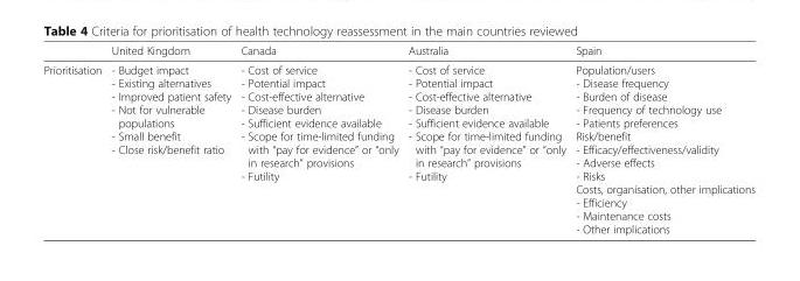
<table><thead><tr><td></td><td>United Kingdom</td><td>Canada</td><td>Australia</td><td>Spain</td></tr></thead><tbody><tr><td>Prioritisation</td><td>- Budget impact - Existing alternatives - Improved patient safety - Not for vulnerable populations - Small benefit - Close risk/benefit ratio</td><td>- Cost of service - Potential impact - Cost-effective alternative - Disease burden - Sufficient evidence available - Scope for time-limited funding with “pay for evidence” or “only in research” provisions - Futility</td><td>- Cost of service - Potential impact - Cost-effective alternative - Disease burden - Sufficient evidence available - Scope for time-limited funding with “pay for evidence” or “only in research” provisions - Futility</td><td>Population/users - Disease frequency - Burden of disease - Frequency of technology use - Patients preferences Risk/benefit - Efficacy/effectiveness/validity - Adverse effects - Risks Costs, organisation, other implications - Efficiency - Maintenance costs - Other implications</td></tr></tbody></table>